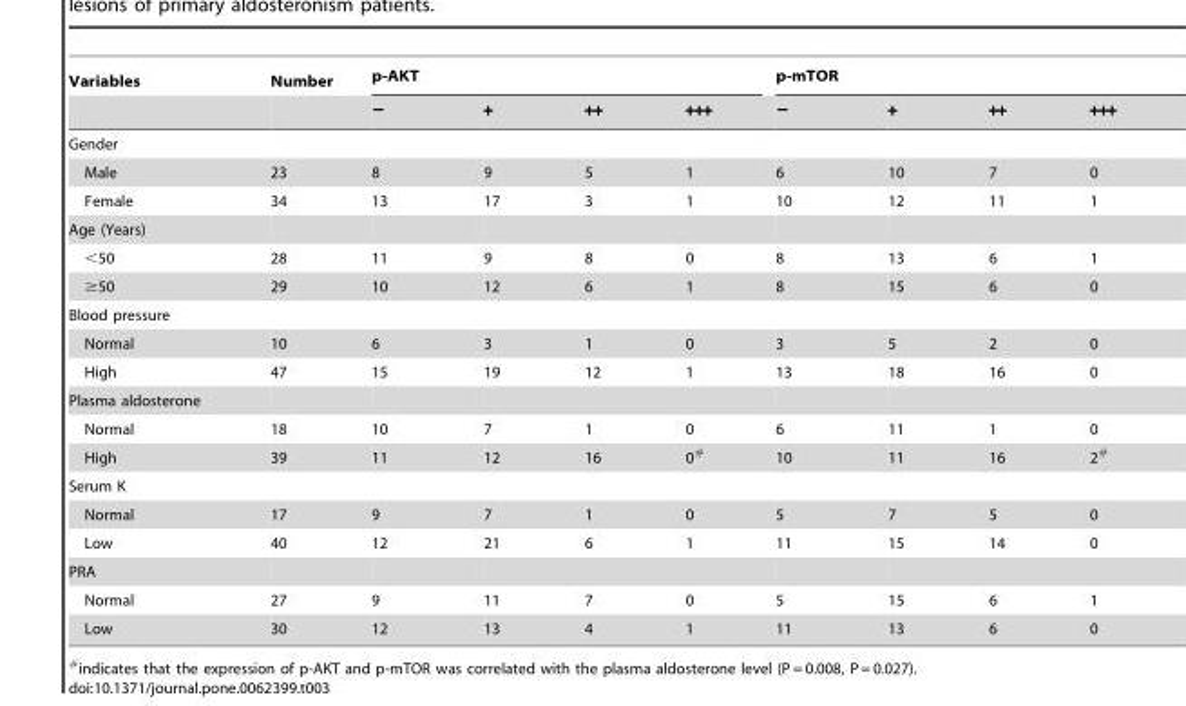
<table><thead><tr><td rowspan="2">Variables</td><td rowspan="2">Number</td><td colspan="4">p-AKT</td><td colspan="4">p-mTOR</td></tr><tr><td>−</td><td>+</td><td>++</td><td>+++</td><td>−</td><td>+</td><td>++</td><td>+++</td></tr></thead><tbody><tr><td colspan="10">Gender</td></tr><tr><td>Male</td><td>23</td><td>8</td><td>9</td><td>5</td><td>1</td><td>6</td><td>10</td><td>7</td><td>0</td></tr><tr><td>Female</td><td>34</td><td>13</td><td>17</td><td>3</td><td>1</td><td>10</td><td>12</td><td>11</td><td>1</td></tr><tr><td colspan="10">Age (Years)</td></tr><tr><td>&lt;50</td><td>28</td><td>11</td><td>9</td><td>8</td><td>0</td><td>8</td><td>13</td><td>6</td><td>1</td></tr><tr><td>≥50</td><td>29</td><td>10</td><td>12</td><td>6</td><td>1</td><td>8</td><td>15</td><td>6</td><td>0</td></tr><tr><td colspan="10">Blood pressure</td></tr><tr><td>Normal</td><td>10</td><td>6</td><td>3</td><td>1</td><td>0</td><td>3</td><td>5</td><td>2</td><td>0</td></tr><tr><td>High</td><td>47</td><td>15</td><td>19</td><td>12</td><td>1</td><td>13</td><td>18</td><td>16</td><td>0</td></tr><tr><td colspan="10">Plasma aldosterone</td></tr><tr><td>Normal</td><td>18</td><td>10</td><td>7</td><td>1</td><td>0</td><td>6</td><td>11</td><td>1</td><td>0</td></tr><tr><td>High</td><td>39</td><td>11</td><td>12</td><td>16</td><td>0#</td><td>10</td><td>11</td><td>16</td><td>2#</td></tr><tr><td colspan="10">Serum K</td></tr><tr><td>Normal</td><td>17</td><td>9</td><td>7</td><td>1</td><td>0</td><td>5</td><td>7</td><td>5</td><td>0</td></tr><tr><td>Low</td><td>40</td><td>12</td><td>21</td><td>6</td><td>1</td><td>11</td><td>15</td><td>14</td><td>0</td></tr><tr><td colspan="10">PRA</td></tr><tr><td>Normal</td><td>27</td><td>9</td><td>11</td><td>7</td><td>0</td><td>5</td><td>15</td><td>6</td><td>1</td></tr><tr><td>Low</td><td>30</td><td>12</td><td>13</td><td>4</td><td>1</td><td>11</td><td>13</td><td>6</td><td>0</td></tr></tbody></table>